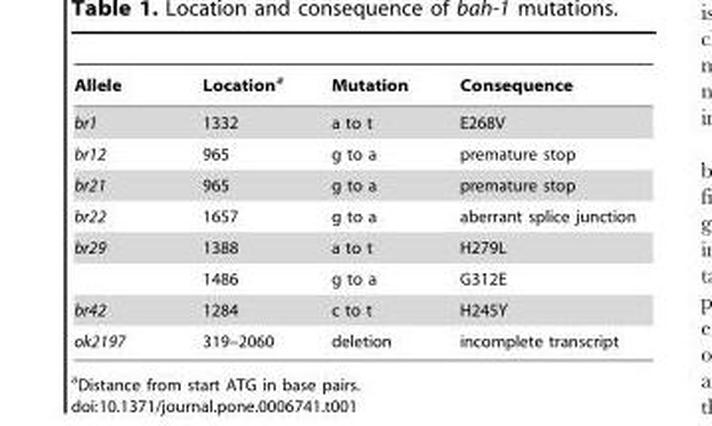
<table><thead><tr><td>Allele</td><td>Location<sup>a</sup></td><td>Mutation</td><td>Consequence</td></tr></thead><tbody><tr><td>br1</td><td>1332</td><td>a to t</td><td>E268V</td></tr><tr><td>br12</td><td>965</td><td>g to a</td><td>premature stop</td></tr><tr><td>br21</td><td>965</td><td>g to a</td><td>premature stop</td></tr><tr><td>br22</td><td>1657</td><td>g to a</td><td>aberrant splice junction</td></tr><tr><td rowspan="2">br29</td><td>1388</td><td>a to t</td><td>H279L</td></tr><tr><td>1486</td><td>g to a</td><td>G312E</td></tr><tr><td>br42</td><td>1284</td><td>c to t</td><td>H245Y</td></tr><tr><td>ok2197</td><td>319–2060</td><td>deletion</td><td>incomplete transcript</td></tr></tbody></table>